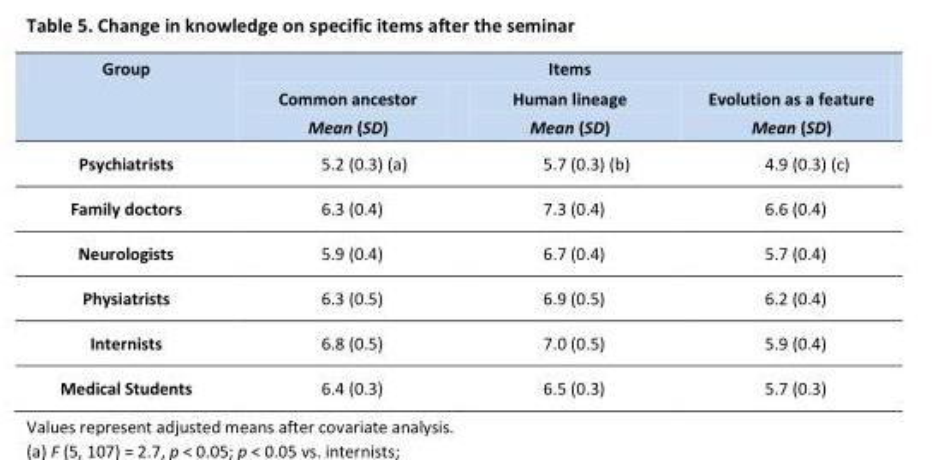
<table><thead><tr><td rowspan="2">Group</td><td colspan="3">Items</td></tr><tr><td>Common ancestor Mean (SD)</td><td>Human lineage Mean (SD)</td><td>Evolution as a feature Mean (SD)</td></tr></thead><tbody><tr><td>Psychiatrists</td><td>5.2 (0.3) (a)</td><td>5.7 (0.3) (b)</td><td>4.9 (0.3) (c)</td></tr><tr><td>Family doctors</td><td>6.3 (0.4)</td><td>7.3 (0.4)</td><td>6.6 (0.4)</td></tr><tr><td>Neurologists</td><td>5.9 (0.4)</td><td>6.7 (0.4)</td><td>5.7 (0.4)</td></tr><tr><td>Physiatrists</td><td>6.3 (0.5)</td><td>6.9 (0.5)</td><td>6.2 (0.4)</td></tr><tr><td>Internists</td><td>6.8 (0.5)</td><td>7.0 (0.5)</td><td>5.9 (0.4)</td></tr><tr><td>Medical Students</td><td>6.4 (0.3)</td><td>6.5 (0.3)</td><td>5.7 (0.3)</td></tr></tbody></table>